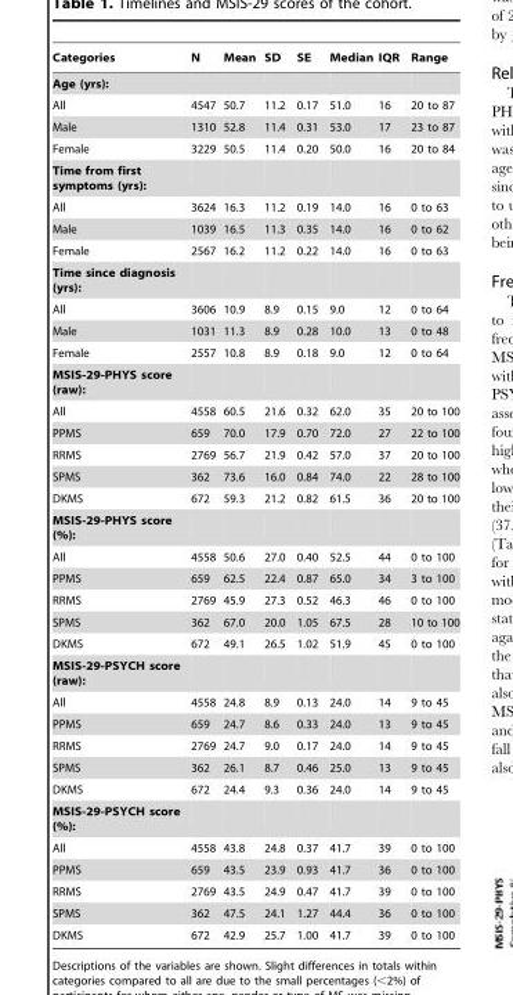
<table><thead><tr><td>Categories</td><td>N</td><td>Mean</td><td>SD</td><td>SE</td><td>Median</td><td>IQR</td><td>Range</td></tr></thead><tbody><tr><td colspan="8">Age (yrs):</td></tr><tr><td>All</td><td>4547</td><td>50.7</td><td>11.2</td><td>0.17</td><td>51.0</td><td>16</td><td>20 to 87</td></tr><tr><td>Male</td><td>1310</td><td>52.8</td><td>11.4</td><td>0.31</td><td>53.0</td><td>17</td><td>23 to 87</td></tr><tr><td>Female</td><td>3229</td><td>50.5</td><td>11.4</td><td>0.20</td><td>50.0</td><td>16</td><td>20 to 84</td></tr><tr><td colspan="8">Time from first symptoms (yrs):</td></tr><tr><td>All</td><td>3624</td><td>16.3</td><td>11.2</td><td>0.19</td><td>14.0</td><td>16</td><td>0 to 63</td></tr><tr><td>Male</td><td>1039</td><td>16.5</td><td>11.3</td><td>0.35</td><td>14.0</td><td>16</td><td>0 to 62</td></tr><tr><td>Female</td><td>2567</td><td>16.2</td><td>11.2</td><td>0.22</td><td>14.0</td><td>16</td><td>0 to 63</td></tr><tr><td colspan="8">Time since diagnosis (yrs):</td></tr><tr><td>All</td><td>3606</td><td>10.9</td><td>8.9</td><td>0.15</td><td>9.0</td><td>12</td><td>0 to 64</td></tr><tr><td>Male</td><td>1031</td><td>11.3</td><td>8.9</td><td>0.28</td><td>10.0</td><td>13</td><td>0 to 48</td></tr><tr><td>Female</td><td>2557</td><td>10.8</td><td>8.9</td><td>0.18</td><td>9.0</td><td>12</td><td>0 to 64</td></tr><tr><td colspan="8">MSIS-29-PHYS score (raw):</td></tr><tr><td>All</td><td>4558</td><td>60.5</td><td>21.6</td><td>0.32</td><td>62.0</td><td>35</td><td>20 to 100</td></tr><tr><td>PPMS</td><td>659</td><td>70.0</td><td>17.9</td><td>0.70</td><td>72.0</td><td>27</td><td>22 to 100</td></tr><tr><td>RRMS</td><td>2769</td><td>56.7</td><td>21.9</td><td>0.42</td><td>57.0</td><td>37</td><td>20 to 100</td></tr><tr><td>SPMS</td><td>362</td><td>73.6</td><td>16.0</td><td>0.84</td><td>74.0</td><td>22</td><td>28 to 100</td></tr><tr><td>DKMS</td><td>672</td><td>59.3</td><td>21.2</td><td>0.82</td><td>61.5</td><td>36</td><td>20 to 100</td></tr><tr><td colspan="8">MSIS-29-PHYS score (%):</td></tr><tr><td>All</td><td>4558</td><td>50.6</td><td>27.0</td><td>0.40</td><td>52.5</td><td>44</td><td>0 to 100</td></tr><tr><td>PPMS</td><td>659</td><td>62.5</td><td>22.4</td><td>0.87</td><td>65.0</td><td>34</td><td>3 to 100</td></tr><tr><td>RRMS</td><td>2769</td><td>45.9</td><td>27.3</td><td>0.52</td><td>46.3</td><td>46</td><td>0 to 100</td></tr><tr><td>SPMS</td><td>362</td><td>67.0</td><td>20.0</td><td>1.05</td><td>67.5</td><td>28</td><td>10 to 100</td></tr><tr><td>DKMS</td><td>672</td><td>49.1</td><td>26.5</td><td>1.02</td><td>51.9</td><td>45</td><td>0 to 100</td></tr><tr><td colspan="8">MSIS-29-PSYCH score (raw):</td></tr><tr><td>All</td><td>4558</td><td>24.8</td><td>8.9</td><td>0.13</td><td>24.0</td><td>14</td><td>9 to 45</td></tr><tr><td>PPMS</td><td>659</td><td>24.7</td><td>8.6</td><td>0.33</td><td>24.0</td><td>13</td><td>9 to 45</td></tr><tr><td>RRMS</td><td>2769</td><td>24.7</td><td>9.0</td><td>0.17</td><td>24.0</td><td>14</td><td>9 to 45</td></tr><tr><td>SPMS</td><td>362</td><td>26.1</td><td>8.7</td><td>0.46</td><td>25.0</td><td>13</td><td>9 to 45</td></tr><tr><td>DKMS</td><td>672</td><td>24.4</td><td>9.3</td><td>0.36</td><td>24.0</td><td>14</td><td>9 to 45</td></tr><tr><td colspan="8">MSIS-29-PSYCH score (%):</td></tr><tr><td>All</td><td>4558</td><td>43.8</td><td>24.8</td><td>0.37</td><td>41.7</td><td>39</td><td>0 to 100</td></tr><tr><td>PPMS</td><td>659</td><td>43.5</td><td>23.9</td><td>0.93</td><td>41.7</td><td>36</td><td>0 to 100</td></tr><tr><td>RRMS</td><td>2769</td><td>43.5</td><td>24.9</td><td>0.47</td><td>41.7</td><td>39</td><td>0 to 100</td></tr><tr><td>SPMS</td><td>362</td><td>47.5</td><td>24.1</td><td>1.27</td><td>44.4</td><td>36</td><td>0 to 100</td></tr><tr><td>DKMS</td><td>672</td><td>42.9</td><td>25.7</td><td>1.00</td><td>41.7</td><td>39</td><td>0 to 100</td></tr></tbody></table>